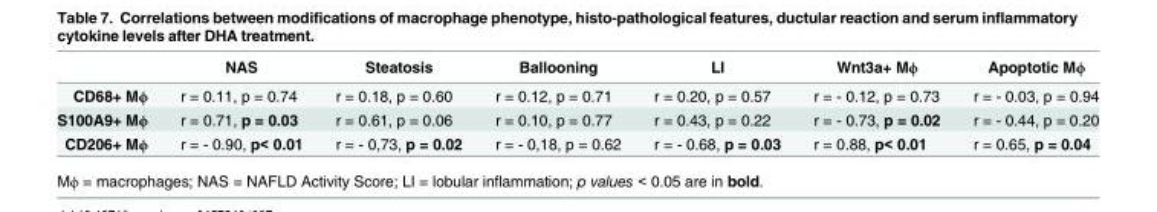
<table><thead><tr><td></td><td>NAS</td><td>Steatosis</td><td>Ballooning</td><td>LI</td><td>Wnt3a+ Mϕ</td><td>Apoptotic Mϕ</td></tr></thead><tbody><tr><td>CD68+ Mϕ</td><td>r = 0.11, p = 0.74</td><td>r = 0.18, p = 0.60</td><td>r = 0.12, p = 0.71</td><td>r = 0.20, p = 0.57</td><td>r = - 0.12, p = 0.73</td><td>r = - 0.03, p = 0.94</td></tr><tr><td>S100A9+ Mϕ</td><td>r = 0.71, p = 0.03</td><td>r = 0.61, p = 0.06</td><td>r = 0.10, p = 0.77</td><td>r = 0.43, p = 0.22</td><td>r = - 0.73, p = 0.02</td><td>r = - 0.44, p = 0.20</td></tr><tr><td>CD206+ Mϕ</td><td>r = - 0.90, p&lt; 0.01</td><td>r = - 0,73, p = 0.02</td><td>r = - 0,18, p = 0.62</td><td>r = - 0.68, p = 0.03</td><td>r = 0.88, p&lt; 0.01</td><td>r = 0.65, p = 0.04</td></tr></tbody></table>